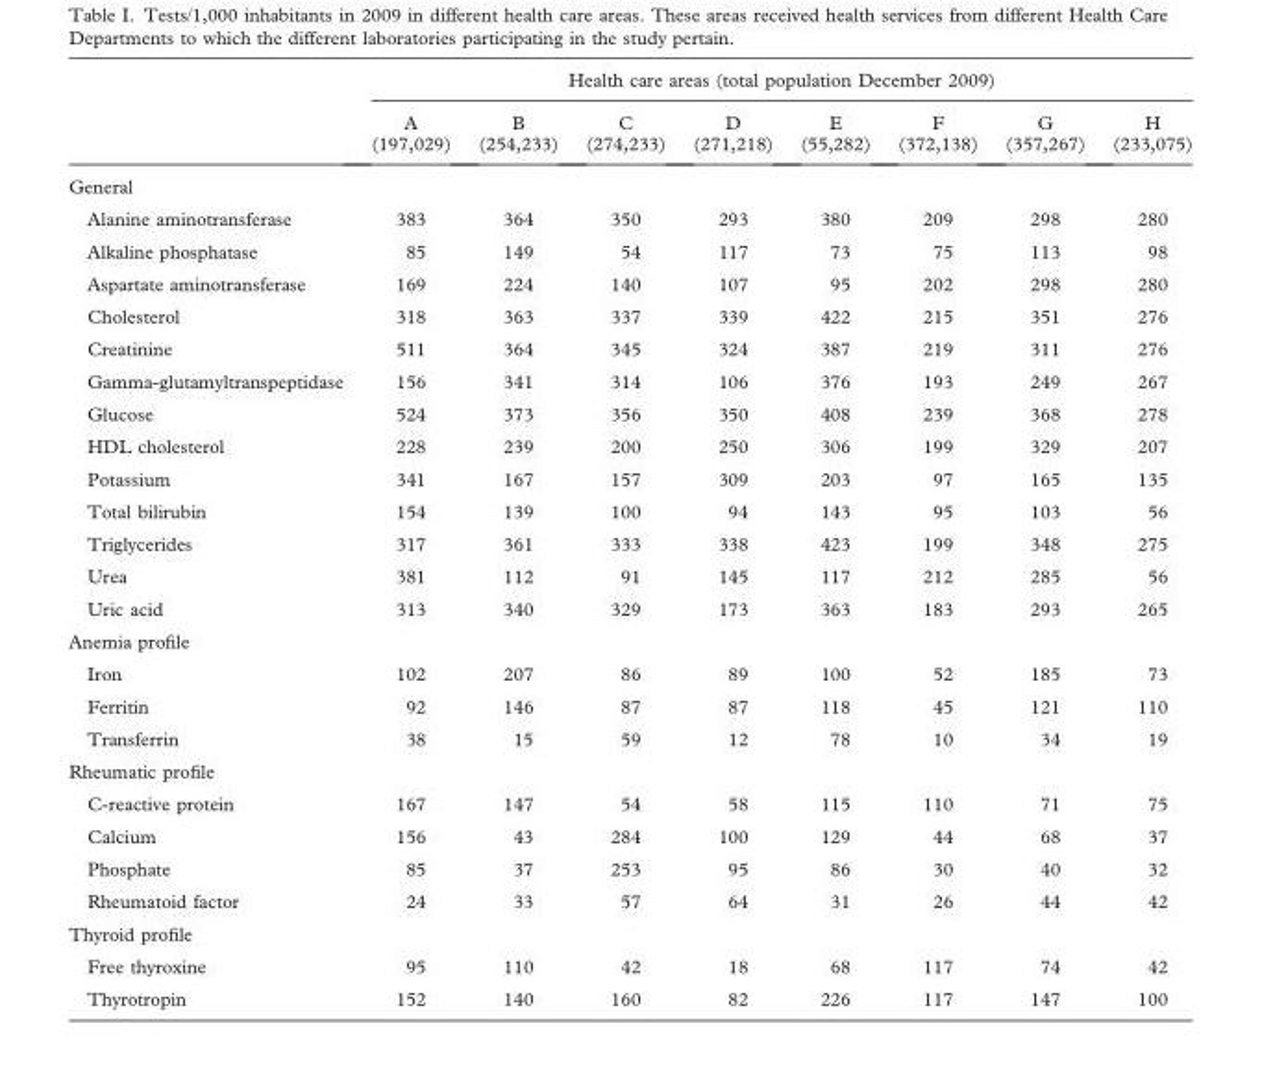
<table><thead><tr><td rowspan="2"></td><td colspan="8">Health care areas (total population December 2009)</td></tr><tr><td>A (197,029)</td><td>B (254,233)</td><td>C (274,233)</td><td>D (271,218)</td><td>E (55,282)</td><td>F (372,138)</td><td>G (357,267)</td><td>H (233,075)</td></tr></thead><tbody><tr><td colspan="9">General</td></tr><tr><td>Alanine aminotransferase</td><td>383</td><td>364</td><td>350</td><td>293</td><td>380</td><td>209</td><td>298</td><td>280</td></tr><tr><td>Alkaline phosphatase</td><td>85</td><td>149</td><td>54</td><td>117</td><td>73</td><td>75</td><td>113</td><td>98</td></tr><tr><td>Aspartate aminotransferase</td><td>169</td><td>224</td><td>140</td><td>107</td><td>95</td><td>202</td><td>298</td><td>280</td></tr><tr><td>Cholesterol</td><td>318</td><td>363</td><td>337</td><td>339</td><td>422</td><td>215</td><td>351</td><td>276</td></tr><tr><td>Creatinine</td><td>511</td><td>364</td><td>345</td><td>324</td><td>387</td><td>219</td><td>311</td><td>276</td></tr><tr><td>Gamma-glutamyltranspeptidase</td><td>156</td><td>341</td><td>314</td><td>106</td><td>376</td><td>193</td><td>249</td><td>267</td></tr><tr><td>Glucose</td><td>524</td><td>373</td><td>356</td><td>350</td><td>408</td><td>239</td><td>368</td><td>278</td></tr><tr><td>HDL cholesterol</td><td>228</td><td>239</td><td>200</td><td>250</td><td>306</td><td>199</td><td>329</td><td>207</td></tr><tr><td>Potassium</td><td>341</td><td>167</td><td>157</td><td>309</td><td>203</td><td>97</td><td>165</td><td>135</td></tr><tr><td>Total bilirubin</td><td>154</td><td>139</td><td>100</td><td>94</td><td>143</td><td>95</td><td>103</td><td>56</td></tr><tr><td>Triglycerides</td><td>317</td><td>361</td><td>333</td><td>338</td><td>423</td><td>199</td><td>348</td><td>275</td></tr><tr><td>Urea</td><td>381</td><td>112</td><td>91</td><td>145</td><td>117</td><td>212</td><td>285</td><td>56</td></tr><tr><td>Uric acid</td><td>313</td><td>340</td><td>329</td><td>173</td><td>363</td><td>183</td><td>293</td><td>265</td></tr><tr><td colspan="9">Anemia profile</td></tr><tr><td>Iron</td><td>102</td><td>207</td><td>86</td><td>89</td><td>100</td><td>52</td><td>185</td><td>73</td></tr><tr><td>Ferritin</td><td>92</td><td>146</td><td>87</td><td>87</td><td>118</td><td>45</td><td>121</td><td>110</td></tr><tr><td>Transferrin</td><td>38</td><td>15</td><td>59</td><td>12</td><td>78</td><td>10</td><td>34</td><td>19</td></tr><tr><td colspan="9">Rheumatic profile</td></tr><tr><td>C-reactive protein</td><td>167</td><td>147</td><td>54</td><td>58</td><td>115</td><td>110</td><td>71</td><td>75</td></tr><tr><td>Calcium</td><td>156</td><td>43</td><td>284</td><td>100</td><td>129</td><td>44</td><td>68</td><td>37</td></tr><tr><td>Phosphate</td><td>85</td><td>37</td><td>253</td><td>95</td><td>86</td><td>30</td><td>40</td><td>32</td></tr><tr><td>Rheumatoid factor</td><td>24</td><td>33</td><td>57</td><td>64</td><td>31</td><td>26</td><td>44</td><td>42</td></tr><tr><td colspan="9">Thyroid profile</td></tr><tr><td>Free thyroxine</td><td>95</td><td>110</td><td>42</td><td>18</td><td>68</td><td>117</td><td>74</td><td>42</td></tr><tr><td>Thyrotropin</td><td>152</td><td>140</td><td>160</td><td>82</td><td>226</td><td>117</td><td>147</td><td>100</td></tr></tbody></table>